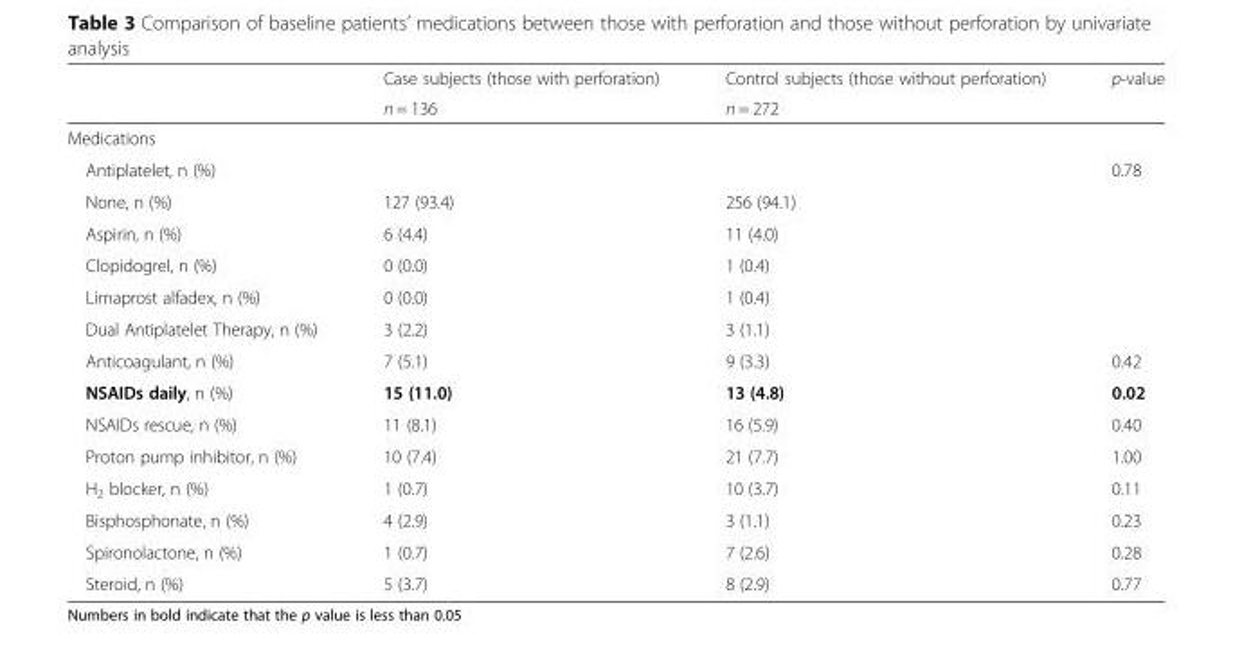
<table><thead><tr><td rowspan="2"></td><td rowspan="2">Case subjects (those with perforation) n = 136</td><td rowspan="2">Control subjects (those without perforation) n = 272</td><td rowspan="2">p-value</td></tr><tr></tr></thead><tbody><tr><td colspan="4">Medications</td></tr><tr><td>Antiplatelet, n (%)</td><td></td><td></td><td>0.78</td></tr><tr><td>None, n (%)</td><td>127 (93.4)</td><td>256 (94.1)</td><td></td></tr><tr><td>Aspirin, n (%)</td><td>6 (4.4)</td><td>11 (4.0)</td><td></td></tr><tr><td>Clopidogrel, n (%)</td><td>0 (0.0)</td><td>1 (0.4)</td><td></td></tr><tr><td>Limaprost alfadex, n (%)</td><td>0 (0.0)</td><td>1 (0.4)</td><td></td></tr><tr><td>Dual Antiplatelet Therapy, n (%)</td><td>3 (2.2)</td><td>3 (1.1)</td><td></td></tr><tr><td>Anticoagulant, n (%)</td><td>7 (5.1)</td><td>9 (3.3)</td><td>0.42</td></tr><tr><td>NSAIDs daily, n (%)</td><td>15 (11.0)</td><td>13 (4.8)</td><td>0.02</td></tr><tr><td>NSAIDs rescue, n (%)</td><td>11 (8.1)</td><td>16 (5.9)</td><td>0.40</td></tr><tr><td>Proton pump inhibitor, n (%)</td><td>10 (7.4)</td><td>21 (7.7)</td><td>1.00</td></tr><tr><td>H<sub>2</sub> blocker, n (%)</td><td>1 (0.7)</td><td>10 (3.7)</td><td>0.11</td></tr><tr><td>Bisphosphonate, n (%)</td><td>4 (2.9)</td><td>3 (1.1)</td><td>0.23</td></tr><tr><td>Spironolactone, n (%)</td><td>1 (0.7)</td><td>7 (2.6)</td><td>0.28</td></tr><tr><td>Steroid, n (%)</td><td>5 (3.7)</td><td>8 (2.9)</td><td>0.77</td></tr></tbody></table>